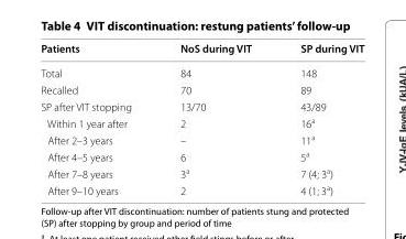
<table><thead><tr><td>Patients</td><td>NoS during VIT</td><td>SP during VIT</td></tr></thead><tbody><tr><td>Total</td><td>84</td><td>148</td></tr><tr><td>Recalled</td><td>70</td><td>89</td></tr><tr><td>SP after VIT stopping</td><td>13/70</td><td>43/89</td></tr><tr><td>Within 1 year after</td><td>2</td><td>16<sup>a</sup></td></tr><tr><td>After 2–3 years</td><td>–</td><td>11<sup>a</sup></td></tr><tr><td>After 4–5 years</td><td>6</td><td>5<sup>a</sup></td></tr><tr><td>After 7–8 years</td><td>3<sup>a</sup></td><td>7 (4; 3<sup>a</sup>)</td></tr><tr><td>After 9–10 years</td><td>2</td><td>4 (1; 3<sup>a</sup>)</td></tr></tbody></table>